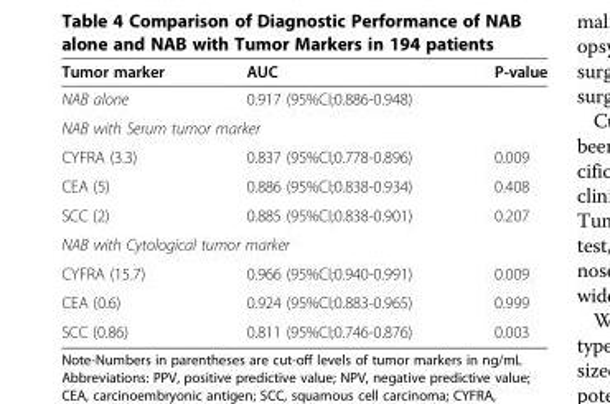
<table><thead><tr><td>Tumor marker</td><td>AUC</td><td>P-value</td></tr></thead><tbody><tr><td>NAB alone</td><td>0.917 (95%CI;0.886-0.948)</td><td></td></tr><tr><td colspan="3">NAB with Serum tumor marker</td></tr><tr><td>CYFRA (3.3)</td><td>0.837 (95%CI;0.778-0.896)</td><td>0.009</td></tr><tr><td>CEA (5)</td><td>0.886 (95%CI;0.838-0.934)</td><td>0.408</td></tr><tr><td>SCC (2)</td><td>0.885 (95%CI;0.838-0.901)</td><td>0.207</td></tr><tr><td colspan="3">NAB with Cytological tumor marker</td></tr><tr><td>CYFRA (15.7)</td><td>0.966 (95%CI;0.940-0.991)</td><td>0.009</td></tr><tr><td>CEA (0.6)</td><td>0.924 (95%CI;0.883-0.965)</td><td>0.999</td></tr><tr><td>SCC (0.86)</td><td>0.811 (95%CI;0.746-0.876)</td><td>0.003</td></tr></tbody></table>